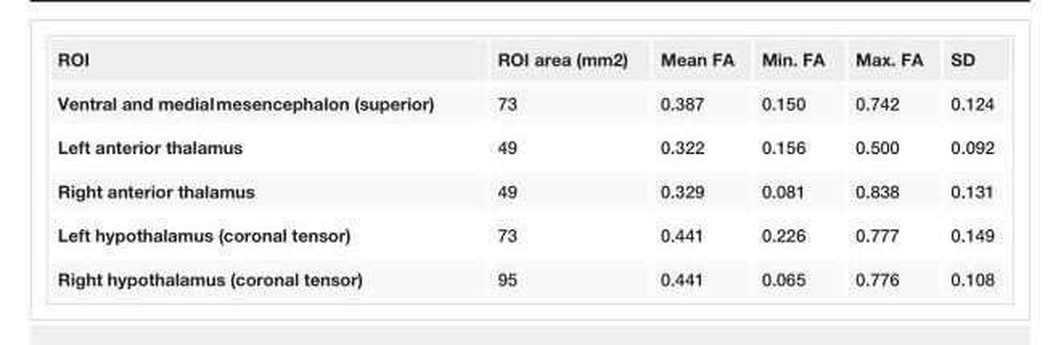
<table><tbody><tr><td>ROI</td><td>ROI area (mm2)</td><td>Mean FA</td><td>Min. FA</td><td>Max. FA</td><td>SD</td></tr><tr><td>Ventral and medial mesencephalon (superior)</td><td>73</td><td>0.387</td><td>0.150</td><td>0.742</td><td>0.124</td></tr><tr><td>Left anterior thalamus</td><td>49</td><td>0.322</td><td>0.156</td><td>0.500</td><td>0.092</td></tr><tr><td>Right anterior thalamus</td><td>49</td><td>0.329</td><td>0.081</td><td>0.838</td><td>0.131</td></tr><tr><td>Left hypothalamus (coronal tensor)</td><td>73</td><td>0.441</td><td>0.226</td><td>0.777</td><td>0.149</td></tr><tr><td>Right hypothalamus (coronal tensor)</td><td>95</td><td>0.441</td><td>0.065</td><td>0.776</td><td>0.108</td></tr></tbody></table>